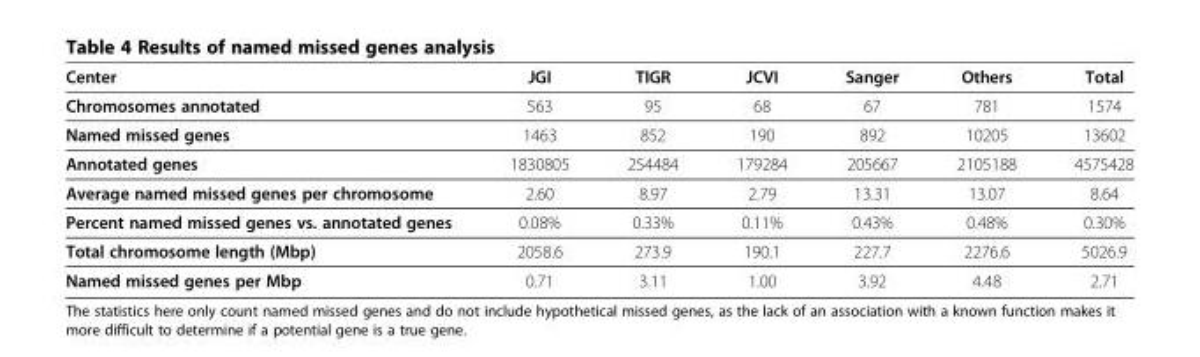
<table><thead><tr><td>Center</td><td>JGI</td><td>TIGR</td><td>JCVI</td><td>Sanger</td><td>Others</td><td>Total</td></tr></thead><tbody><tr><td>Chromosomes annotated</td><td>563</td><td>95</td><td>68</td><td>67</td><td>781</td><td>1574</td></tr><tr><td>Named missed genes</td><td>1463</td><td>852</td><td>190</td><td>892</td><td>10205</td><td>13602</td></tr><tr><td>Annotated genes</td><td>1830805</td><td>254484</td><td>179284</td><td>205667</td><td>2105188</td><td>4575428</td></tr><tr><td>Average named missed genes per chromosome</td><td>2.60</td><td>8.97</td><td>2.79</td><td>13.31</td><td>13.07</td><td>8.64</td></tr><tr><td>Percent named missed genes vs. annotated genes</td><td>0.08%</td><td>0.33%</td><td>0.11%</td><td>0.43%</td><td>0.48%</td><td>0.30%</td></tr><tr><td>Total chromosome length (Mbp)</td><td>2058.6</td><td>273.9</td><td>190.1</td><td>227.7</td><td>2276.6</td><td>5026.9</td></tr><tr><td>Named missed genes per Mbp</td><td>0.71</td><td>3.11</td><td>1.00</td><td>3.92</td><td>4.48</td><td>2.71</td></tr></tbody></table>